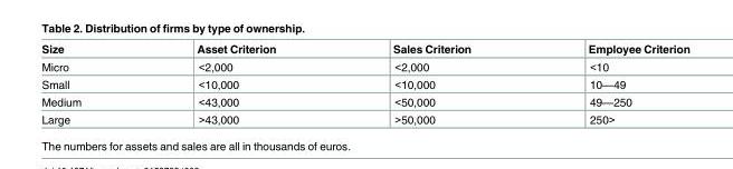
<table><thead><tr><td>Size</td><td>Asset Criterion</td><td>Sales Criterion</td><td>Employee Criterion</td></tr></thead><tbody><tr><td>Micro</td><td>&lt;2,000</td><td>&lt;2,000</td><td>&lt;10</td></tr><tr><td>Small</td><td>&lt;10,000</td><td>&lt;10,000</td><td>10—49</td></tr><tr><td>Medium</td><td>&lt;43,000</td><td>&lt;50,000</td><td>49—250</td></tr><tr><td>Large</td><td>&gt;43,000</td><td>&gt;50,000</td><td>250&gt;</td></tr></tbody></table>